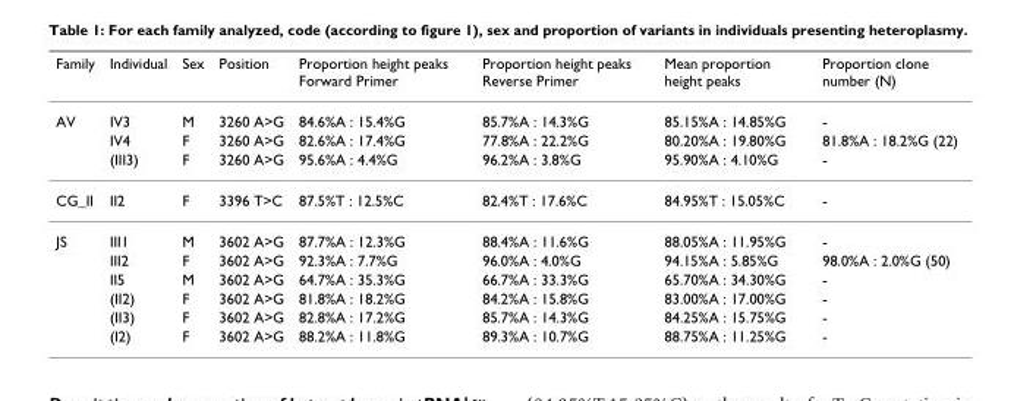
<table><thead><tr><td>Family</td><td>Individual</td><td>Sex</td><td>Position</td><td>Proportion height peaks Forward Primer</td><td>Proportion height peaks Reverse Primer</td><td>Mean proportion height peaks</td><td>Proportion clone number (N)</td></tr></thead><tbody><tr><td rowspan="3">AV</td><td>IV3</td><td>M</td><td>3260 A&gt;G</td><td>84.6%A : 15.4%G</td><td>85.7%A : 14.3%G</td><td>85.15%A : 14.85%G</td><td>-</td></tr><tr><td>IV4</td><td>F</td><td>3260 A&gt;G</td><td>82.6%A : 17.4%G</td><td>77.8%A : 22.2%G</td><td>80.20%A : 19.80%G</td><td>81.8%A : 18.2%G (22)</td></tr><tr><td>(III3)</td><td>F</td><td>3260 A&gt;G</td><td>95.6%A : 4.4%G</td><td>96.2%A : 3.8%G</td><td>95.90%A : 4.10%G</td><td>-</td></tr><tr><td>CG_II</td><td>II2</td><td>F</td><td>3396 T&gt;C</td><td>87.5%T : 12.5%C</td><td>82.4%T : 17.6%C</td><td>84.95%T : 15.05%C</td><td>-</td></tr><tr><td rowspan="6">JS</td><td>III1</td><td>M</td><td>3602 A&gt;G</td><td>87.7%A : 12.3%G</td><td>88.4%A : 11.6%G</td><td>88.05%A : 11.95%G</td><td>-</td></tr><tr><td>III2</td><td>F</td><td>3602 A&gt;G</td><td>92.3%A : 7.7%G</td><td>96.0%A : 4.0%G</td><td>94.15%A : 5.85%G</td><td>98.0%A : 2.0%G (50)</td></tr><tr><td>II5</td><td>M</td><td>3602 A&gt;G</td><td>64.7%A : 35.3%G</td><td>66.7%A : 33.3%G</td><td>65.70%A : 34.30%G</td><td>-</td></tr><tr><td>(II2)</td><td>F</td><td>3602 A&gt;G</td><td>81.8%A : 18.2%G</td><td>84.2%A : 15.8%G</td><td>83.00%A : 17.00%G</td><td>-</td></tr><tr><td>(II3)</td><td>F</td><td>3602 A&gt;G</td><td>82.8%A : 17.2%G</td><td>85.7%A : 14.3%G</td><td>84.25%A : 15.75%G</td><td>-</td></tr><tr><td>(I2)</td><td>F</td><td>3602 A&gt;G</td><td>88.2%A : 11.8%G</td><td>89.3%A : 10.7%G</td><td>88.75%A : 11.25%G</td><td>-</td></tr></tbody></table>